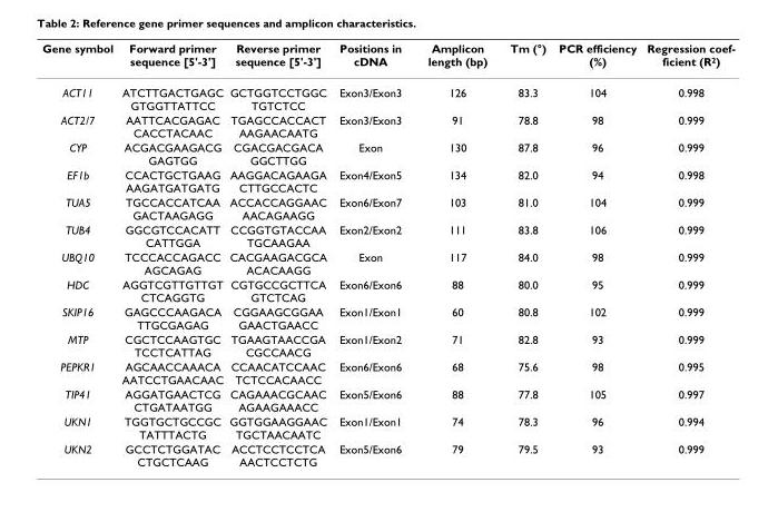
<table><thead><tr><td>Gene symbol</td><td>Forward primer sequence [5&#x27;-3&#x27;]</td><td>Reverse primer sequence [5&#x27;-3&#x27;]</td><td>Positions in cDNA</td><td>Amplicon length (bp)</td><td>Tm (°)</td><td>PCR efficiency (%)</td><td>Regression coef- ficient (R2)</td></tr></thead><tbody><tr><td>ACT11</td><td>ATCTTGACTGAGC GTGGTTATTCC</td><td>GCTGGTCCTGGC TGTCTCC</td><td>Exon3/Exon3</td><td>126</td><td>83.3</td><td>104</td><td>0.998</td></tr><tr><td>ACT2/7</td><td>AATTCACGAGAC CACCTACAAC</td><td>TGAGCCACCACT AAGAACAATG</td><td>Exon3/Exon3</td><td>91</td><td>78.8</td><td>98</td><td>0.999</td></tr><tr><td>CYP</td><td>ACGACGAAGACG GAGTGG</td><td>CGACGACGACA GGCTTGG</td><td>Exon</td><td>130</td><td>87.8</td><td>96</td><td>0.999</td></tr><tr><td>EF1b</td><td>CCACTGCTGAAG AAGATGATGATG</td><td>AAGGACAGAAGA CTTGCCACTC</td><td>Exon4/Exon5</td><td>134</td><td>82.0</td><td>94</td><td>0.998</td></tr><tr><td>TUA5</td><td>TGCCACCATCAA GACTAAGAGG</td><td>ACCACCAGGAAC AACAGAAGG</td><td>Exon6/Exon7</td><td>103</td><td>81.0</td><td>104</td><td>0.999</td></tr><tr><td>TUB4</td><td>GGCGTCCACATT CATTGGA</td><td>CCGGTGTACCAA TGCAAGAA</td><td>Exon2/Exon2</td><td>111</td><td>83.8</td><td>106</td><td>0.999</td></tr><tr><td>UBQ10</td><td>TCCCACCAGACC AGCAGAG</td><td>CACGAAGACGCA ACACAAGG</td><td>Exon</td><td>117</td><td>84.0</td><td>98</td><td>0.999</td></tr><tr><td>HDC</td><td>AGGTCGTTGTTGT CTCAGGTG</td><td>CGTGCCGCTTCA GTCTCAG</td><td>Exon6/Exon6</td><td>88</td><td>80.0</td><td>95</td><td>0.999</td></tr><tr><td>SKIP16</td><td>GAGCCCAAGACA TTGCGAGAG</td><td>CGGAAGCGGAA GAACTGAACC</td><td>Exon1/Exon1</td><td>60</td><td>80.8</td><td>102</td><td>0.999</td></tr><tr><td>MTP</td><td>CGCTCCAAGTGC TCCTCATTAG</td><td>TGAAGTAACCGA CGCCAACG</td><td>Exon1/Exon2</td><td>71</td><td>82.8</td><td>93</td><td>0.999</td></tr><tr><td>PEPKR1</td><td>AGCAACCAAACA AATCCTGAACAAC</td><td>CCAACATCCAAC TCTCCACAACC</td><td>Exon6/Exon6</td><td>68</td><td>75.6</td><td>98</td><td>0.995</td></tr><tr><td>TIP41</td><td>AGGATGAACTCG CTGATAATGG</td><td>CAGAAACGCAAC AGAAGAAACC</td><td>Exon5/Exon6</td><td>88</td><td>77.8</td><td>105</td><td>0.997</td></tr><tr><td>UKN1</td><td>TGGTGCTGCCGC TATTTACTG</td><td>GGTGGAAGGAAC TGCTAACAATC</td><td>Exon1/Exon1</td><td>74</td><td>78.3</td><td>96</td><td>0.994</td></tr><tr><td>UKN2</td><td>GCCTCTGGATAC CTGCTCAAG</td><td>ACCTCCTCCTCA AACTCCTCTG</td><td>Exon5/Exon6</td><td>79</td><td>79.5</td><td>93</td><td>0.999</td></tr></tbody></table>